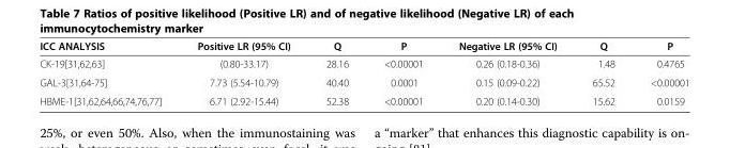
<table><thead><tr><td>ICC ANALYSIS</td><td>Positive LR (95% CI)</td><td>Q</td><td>P</td><td>Negative LR (95% CI)</td><td>Q</td><td>P</td></tr></thead><tbody><tr><td>CK-19[31,62,63]</td><td>(0.80-33.17)</td><td>28.16</td><td>&lt;0.00001</td><td>0.26 (0.18-0.36)</td><td>1.48</td><td>0.4765</td></tr><tr><td>GAL-3[31,64-75]</td><td>7.73 (5.54-10.79)</td><td>40.40</td><td>0.0001</td><td>0.15 (0.09-0.22)</td><td>65.52</td><td>&lt;0.00001</td></tr><tr><td>HBME-1[31,62,64,66,74,76,77]</td><td>6.71 (2.92-15.44)</td><td>52.38</td><td>&lt;0.00001</td><td>0.20 (0.14-0.30)</td><td>15.62</td><td>0.0159</td></tr></tbody></table>